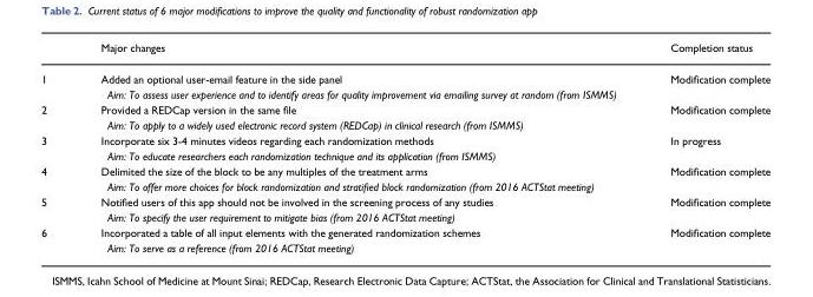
<table><thead><tr><td></td><td>Major changes</td><td>Completion status</td></tr></thead><tbody><tr><td>1</td><td>Added an optional user-email feature in the side panel Aim: To assess user experience and to identify areas for quality improvement via emailing survey at random (from ISMMS)</td><td>Modification complete</td></tr><tr><td>2</td><td>Provided a REDCap version in the same file Aim: To apply to a widely used electronic record system (REDCap) in clinical research (from ISMMS)</td><td>Modification complete</td></tr><tr><td>3</td><td>Incorporate six 3-4 minutes videos regarding each randomization methods Aim: To educate researchers each randomization technique and its application (from ISMMS)</td><td>In progress</td></tr><tr><td>4</td><td>Delimited the size of the block to be any multiples of the treatment arms Aim: To offer more choices for block randomization and stratified block randomization (from 2016 ACTStat meeting)</td><td>Modification complete</td></tr><tr><td>5</td><td>Notified users of this app should not be involved in the screening process of any studies Aim: To specify the user requirement to mitigate bias (from 2016 ACTStat meeting)</td><td>Modification complete</td></tr><tr><td>6</td><td>Incorporated a table of all input elements with the generated randomization schemes Aim: To serve as a reference (from 2016 ACTStat meeting)</td><td>Modification complete</td></tr></tbody></table>